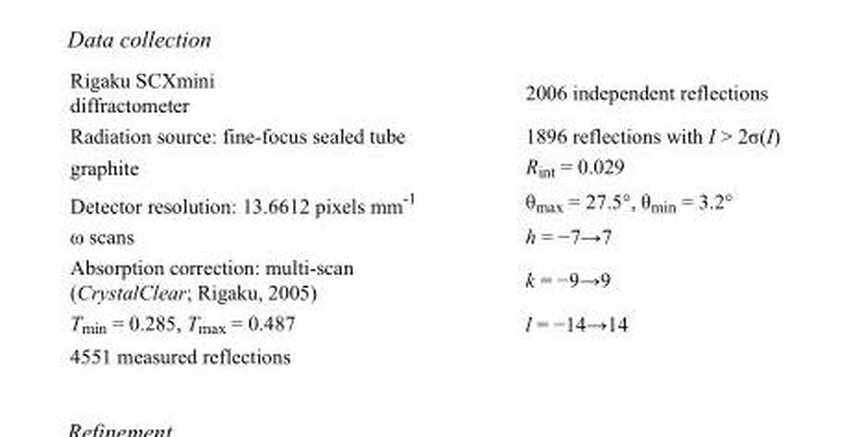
<table><tbody><tr><td>Rigaku SCXmini diffractometer</td><td>2006 independent reflections</td></tr><tr><td>Radiation source: fine-focus sealed tube</td><td>1896 reflections with I &gt; 2σ(I)</td></tr><tr><td>graphite</td><td>R<sub>int</sub> = 0.029</td></tr><tr><td>Detector resolution: 13.6612 pixels mm<sup>-1</sup></td><td>θ<sub>max</sub> = 27.5°, θ<sub>min</sub> = 3.2°</td></tr><tr><td>ω scans</td><td>h = −7→7</td></tr><tr><td>Absorption correction: multi-scan (CrystalClear; Rigaku, 2005)</td><td>k = −9→9</td></tr><tr><td>T<sub>min</sub> = 0.285, T<sub>max</sub> = 0.487</td><td>l = −14→14</td></tr><tr><td>4551 measured reflections</td><td></td></tr></tbody></table>